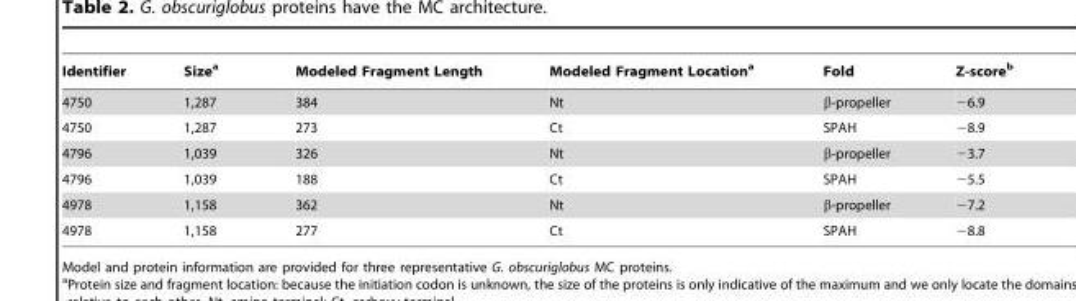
<table><thead><tr><td>Identifier</td><td>Size<sup>a</sup></td><td>Modeled Fragment Length</td><td>Modeled Fragment Location<sup>a</sup></td><td>Fold</td><td>Z-score<sup>b</sup></td></tr></thead><tbody><tr><td>4750</td><td>1,287</td><td>384</td><td>Nt</td><td>β-propeller</td><td>−6.9</td></tr><tr><td>4750</td><td>1,287</td><td>273</td><td>Ct</td><td>SPAH</td><td>−8.9</td></tr><tr><td>4796</td><td>1,039</td><td>326</td><td>Nt</td><td>β-propeller</td><td>−3.7</td></tr><tr><td>4796</td><td>1,039</td><td>188</td><td>Ct</td><td>SPAH</td><td>−5.5</td></tr><tr><td>4978</td><td>1,158</td><td>362</td><td>Nt</td><td>β-propeller</td><td>−7.2</td></tr><tr><td>4978</td><td>1,158</td><td>277</td><td>Ct</td><td>SPAH</td><td>−8.8</td></tr></tbody></table>